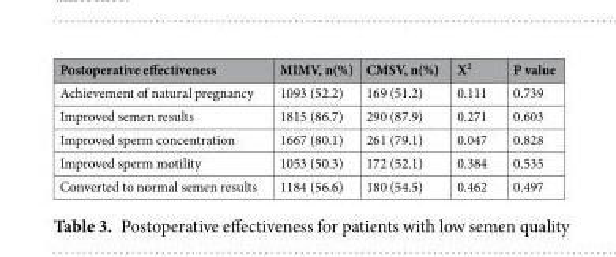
<table><thead><tr><td>Postoperative effectiveness</td><td>MIMV, n(%)</td><td>CMSV, n(%)</td><td>X<sup>2</sup></td><td>P value</td></tr></thead><tbody><tr><td>Achievement of natural pregnancy</td><td>1093 (52.2)</td><td>169 (51.2)</td><td>0.111</td><td>0.739</td></tr><tr><td>Improved semen results</td><td>1815 (86.7)</td><td>290 (87.9)</td><td>0.271</td><td>0.603</td></tr><tr><td>Improved sperm concentration</td><td>1667 (80.1)</td><td>261 (79.1)</td><td>0.047</td><td>0.828</td></tr><tr><td>Improved sperm motility</td><td>1053 (50.3)</td><td>172 (52.1)</td><td>0.384</td><td>0.535</td></tr><tr><td>Converted to normal semen results</td><td>1184 (56.6)</td><td>180 (54.5)</td><td>0.462</td><td>0.497</td></tr></tbody></table>